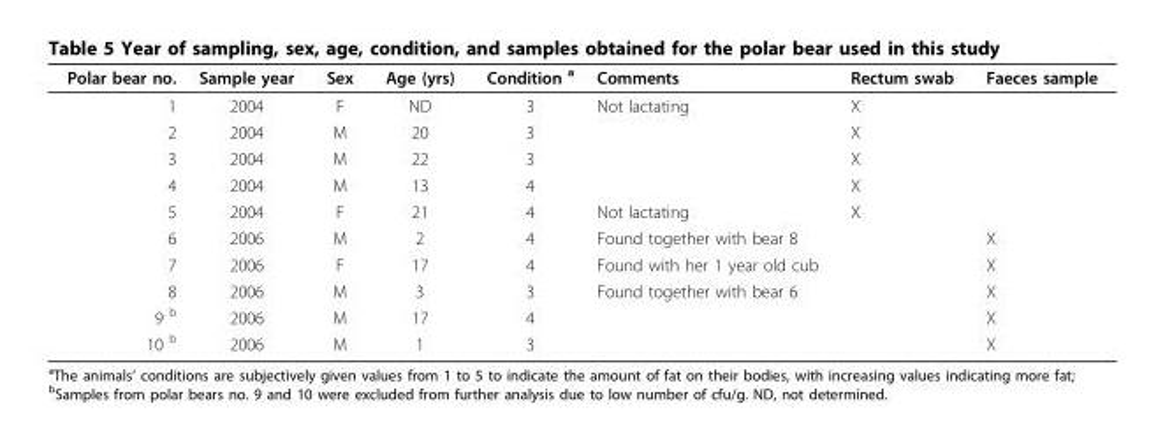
<table><thead><tr><td>Polar bear no.</td><td>Sample year</td><td>Sex</td><td>Age (yrs)</td><td>Condition <sup>a</sup></td><td>Comments</td><td>Rectum swab</td><td>Faeces sample</td></tr></thead><tbody><tr><td>1</td><td>2004</td><td>F</td><td>ND</td><td>3</td><td>Not lactating</td><td>X</td><td></td></tr><tr><td>2</td><td>2004</td><td>M</td><td>20</td><td>3</td><td></td><td>X</td><td></td></tr><tr><td>3</td><td>2004</td><td>M</td><td>22</td><td>3</td><td></td><td>X</td><td></td></tr><tr><td>4</td><td>2004</td><td>M</td><td>13</td><td>4</td><td></td><td>X</td><td></td></tr><tr><td>5</td><td>2004</td><td>F</td><td>21</td><td>4</td><td>Not lactating</td><td>X</td><td></td></tr><tr><td>6</td><td>2006</td><td>M</td><td>2</td><td>4</td><td>Found together with bear 8</td><td></td><td>X</td></tr><tr><td>7</td><td>2006</td><td>F</td><td>17</td><td>4</td><td>Found with her 1 year old cub</td><td></td><td>X</td></tr><tr><td>8</td><td>2006</td><td>M</td><td>3</td><td>3</td><td>Found together with bear 6</td><td></td><td>X</td></tr><tr><td>9 <sup>b</sup></td><td>2006</td><td>M</td><td>17</td><td>4</td><td></td><td></td><td>X</td></tr><tr><td>10 <sup>b</sup></td><td>2006</td><td>M</td><td>1</td><td>3</td><td></td><td></td><td>X</td></tr></tbody></table>